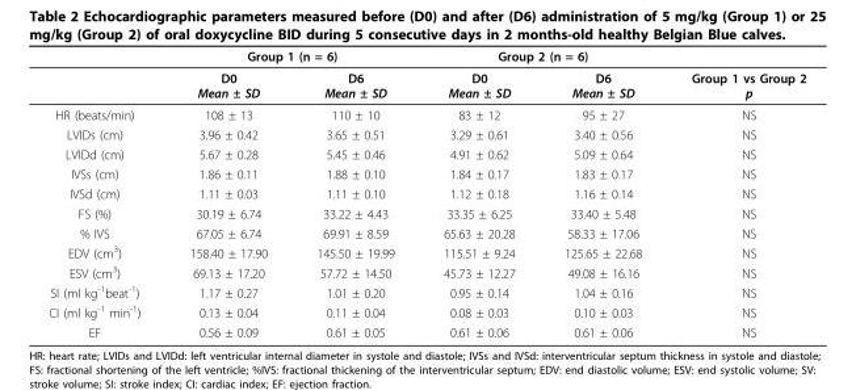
<table><thead><tr><td rowspan="2"></td><td colspan="2">Group 1 (n = 6)</td><td colspan="2">Group 2 (n = 6)</td><td rowspan="2">Group 1 vs Group 2 p</td></tr><tr><td>D0 Mean ± SD</td><td>D6 Mean ± SD</td><td>D0 Mean ± SD</td><td>D6 Mean ± SD</td></tr></thead><tbody><tr><td>HR (beats/min)</td><td>108 ± 13</td><td>110 ± 10</td><td>83 ± 12</td><td>95 ± 27</td><td>NS</td></tr><tr><td>LVIDs (cm)</td><td>3.96 ± 0.42</td><td>3.65 ± 0.51</td><td>3.29 ± 0.61</td><td>3.40 ± 0.56</td><td>NS</td></tr><tr><td>LVIDd (cm)</td><td>5.67 ± 0.28</td><td>5.45 ± 0.46</td><td>4.91 ± 0.62</td><td>5.09 ± 0.64</td><td>NS</td></tr><tr><td>IVSs (cm)</td><td>1.86 ± 0.11</td><td>1.88 ± 0.10</td><td>1.84 ± 0.17</td><td>1.83 ± 0.17</td><td>NS</td></tr><tr><td>IVSd (cm)</td><td>1.11 ± 0.03</td><td>1.11 ± 0.10</td><td>1.12 ± 0.18</td><td>1.16 ± 0.14</td><td>NS</td></tr><tr><td>FS (%)</td><td>30.19 ± 6.74</td><td>33.22 ± 4.43</td><td>33.35 ± 6.25</td><td>33.40 ± 5.48</td><td>NS</td></tr><tr><td>% IVS</td><td>67.05 ± 6.74</td><td>69.91 ± 8.59</td><td>65.63 ± 20.28</td><td>58.33 ± 17.06</td><td>NS</td></tr><tr><td>EDV (cm<sup>3</sup>)</td><td>158.40 ± 17.90</td><td>145.50 ± 19.99</td><td>115.51 ± 9.24</td><td>125.65 ± 22.68</td><td>NS</td></tr><tr><td>ESV (cm<sup>3</sup>)</td><td>69.13 ± 17.20</td><td>57.72 ± 14.50</td><td>45.73 ± 12.27</td><td>49.08 ± 16.16</td><td>NS</td></tr><tr><td>SI (ml kg<sup>-1</sup>beat<sup>-1</sup>)</td><td>1.17 ± 0.27</td><td>1.01 ± 0.20</td><td>0.95 ± 0.14</td><td>1.04 ± 0.16</td><td>NS</td></tr><tr><td>CI (ml kg<sup>-1</sup> min<sup>-1</sup>)</td><td>0.13 ± 0.04</td><td>0.11 ± 0.04</td><td>0.08 ± 0.03</td><td>0.10 ± 0.03</td><td>NS</td></tr><tr><td>EF</td><td>0.56 ± 0.09</td><td>0.61 ± 0.05</td><td>0.61 ± 0.06</td><td>0.61 ± 0.06</td><td>NS</td></tr></tbody></table>